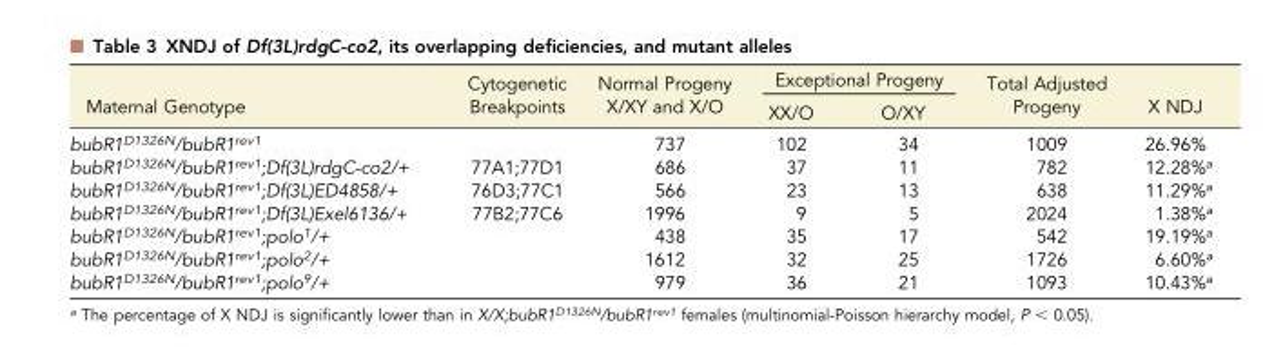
<table><thead><tr><td rowspan="2">Maternal Genotype</td><td rowspan="2">Cytogenetic Breakpoints</td><td rowspan="2">Normal Progeny X/XY and X/O</td><td colspan="2">Exceptional Progeny</td><td rowspan="2">Total Adjusted Progeny</td><td rowspan="2">X NDJ</td></tr><tr><td>XX/O</td><td>O/XY</td></tr></thead><tbody><tr><td>bubR1<sup>D1326N</sup>/bubR1<sup>rev1</sup></td><td></td><td>737</td><td>102</td><td>34</td><td>1009</td><td>26.96%</td></tr><tr><td>bubR1<sup>D1326N</sup>/bubR1<sup>rev1</sup>;Df(3L)rdgC-co2/+</td><td>77A1;77D1</td><td>686</td><td>37</td><td>11</td><td>782</td><td>12.28%<sup>a</sup></td></tr><tr><td>bubR1<sup>D1326N</sup>/bubR1<sup>rev1</sup>;Df(3L)ED4858/+</td><td>76D3;77C1</td><td>566</td><td>23</td><td>13</td><td>638</td><td>11.29%<sup>a</sup></td></tr><tr><td>bubR1<sup>D1326N</sup>/bubR1<sup>rev1</sup>;Df(3L)Exel6136/+</td><td>77B2;77C6</td><td>1996</td><td>9</td><td>5</td><td>2024</td><td>1.38%<sup>a</sup></td></tr><tr><td>bubR1<sup>D1326N</sup>/bubR1<sup>rev1</sup>;polo<sup>1</sup>/+</td><td></td><td>438</td><td>35</td><td>17</td><td>542</td><td>19.19%<sup>a</sup></td></tr><tr><td>bubR1<sup>D1326N</sup>/bubR1<sup>rev1</sup>;polo<sup>2</sup>/+</td><td></td><td>1612</td><td>32</td><td>25</td><td>1726</td><td>6.60%<sup>a</sup></td></tr><tr><td>bubR1<sup>D1326N</sup>/bubR1<sup>rev1</sup>;polo<sup>9</sup>/+</td><td></td><td>979</td><td>36</td><td>21</td><td>1093</td><td>10.43%<sup>a</sup></td></tr></tbody></table>